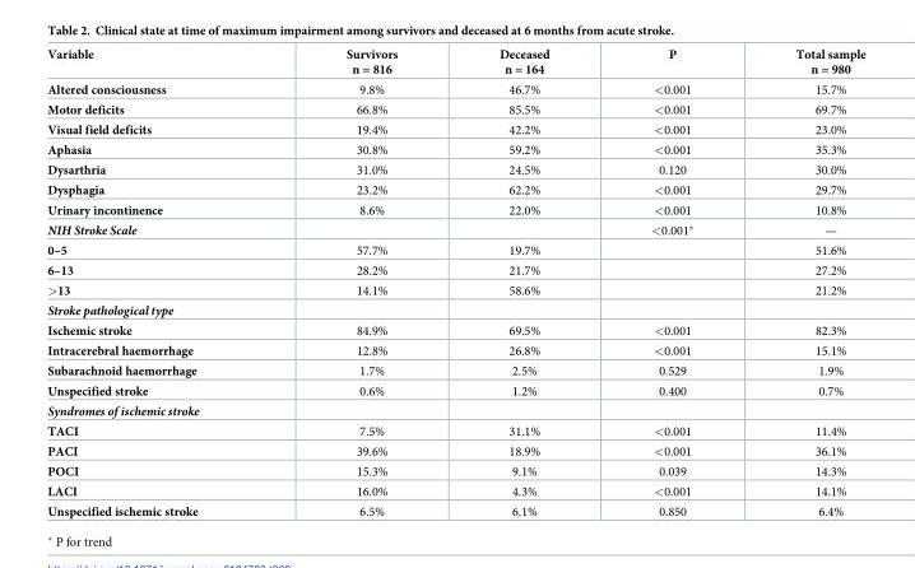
<table><thead><tr><td>Variable</td><td>Survivors n = 816</td><td>Deceased n = 164</td><td>P</td><td>Total sample n = 980</td></tr></thead><tbody><tr><td>Altered consciousness</td><td>9.8%</td><td>46.7%</td><td>&lt;0.001</td><td>15.7%</td></tr><tr><td>Motor deficits</td><td>66.8%</td><td>85.5%</td><td>&lt;0.001</td><td>69.7%</td></tr><tr><td>Visual field deficits</td><td>19.4%</td><td>42.2%</td><td>&lt;0.001</td><td>23.0%</td></tr><tr><td>Aphasia</td><td>30.8%</td><td>59.2%</td><td>&lt;0.001</td><td>35.3%</td></tr><tr><td>Dysarthria</td><td>31.0%</td><td>24.5%</td><td>0.120</td><td>30.0%</td></tr><tr><td>Dysphagia</td><td>23.2%</td><td>62.2%</td><td>&lt;0.001</td><td>29.7%</td></tr><tr><td>Urinary incontinence</td><td>8.6%</td><td>22.0%</td><td>&lt;0.001</td><td>10.8%</td></tr><tr><td>NIH Stroke Scale</td><td></td><td></td><td>&lt;0.001*</td><td>—</td></tr><tr><td>0–5</td><td>57.7%</td><td>19.7%</td><td></td><td>51.6%</td></tr><tr><td>6–13</td><td>28.2%</td><td>21.7%</td><td></td><td>27.2%</td></tr><tr><td>&gt;13</td><td>14.1%</td><td>58.6%</td><td></td><td>21.2%</td></tr><tr><td colspan="5">Stroke pathological type</td></tr><tr><td>Ischemic stroke</td><td>84.9%</td><td>69.5%</td><td>&lt;0.001</td><td>82.3%</td></tr><tr><td>Intracerebral haemorrhage</td><td>12.8%</td><td>26.8%</td><td>&lt;0.001</td><td>15.1%</td></tr><tr><td>Subarachnoid haemorrhage</td><td>1.7%</td><td>2.5%</td><td>0.529</td><td>1.9%</td></tr><tr><td>Unspecified stroke</td><td>0.6%</td><td>1.2%</td><td>0.400</td><td>0.7%</td></tr><tr><td colspan="5">Syndromes of ischemic stroke</td></tr><tr><td>TACI</td><td>7.5%</td><td>31.1%</td><td>&lt;0.001</td><td>11.4%</td></tr><tr><td>PACI</td><td>39.6%</td><td>18.9%</td><td>&lt;0.001</td><td>36.1%</td></tr><tr><td>POCI</td><td>15.3%</td><td>9.1%</td><td>0.039</td><td>14.3%</td></tr><tr><td>LACI</td><td>16.0%</td><td>4.3%</td><td>&lt;0.001</td><td>14.1%</td></tr><tr><td>Unspecified ischemic stroke</td><td>6.5%</td><td>6.1%</td><td>0.850</td><td>6.4%</td></tr></tbody></table>